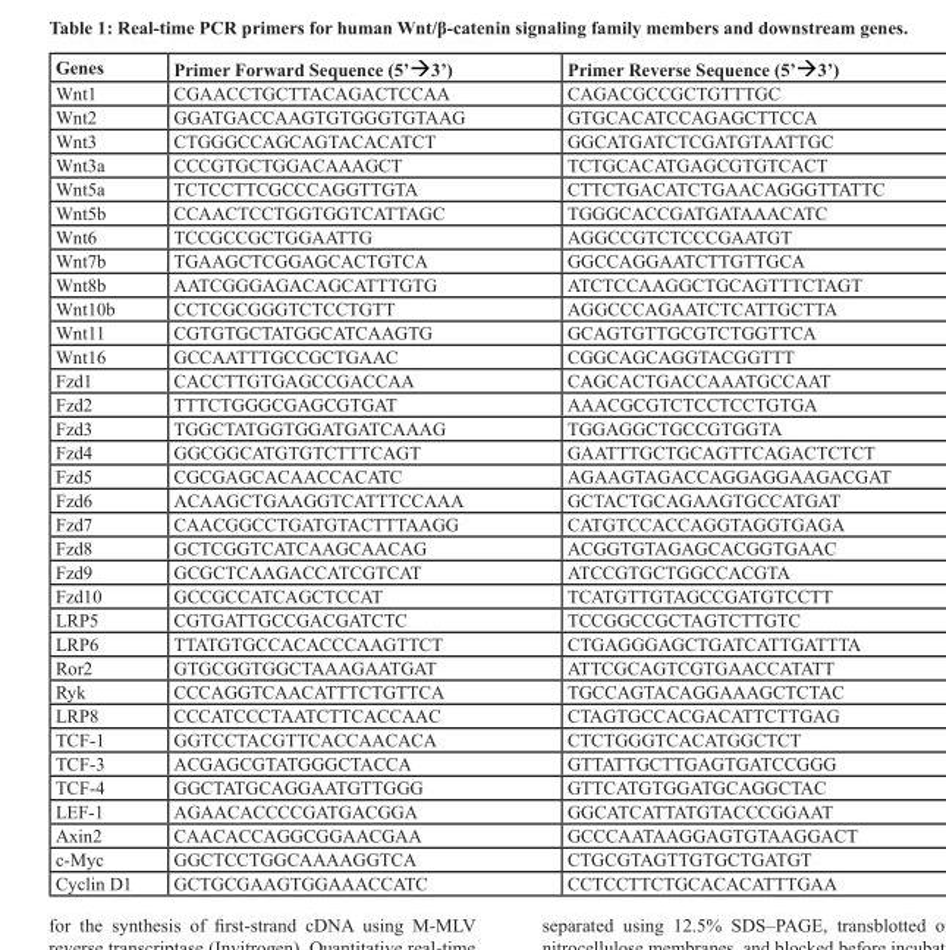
<table><thead><tr><td>Genes</td><td>Primer Forward Sequence (5’→3’)</td><td>Primer Reverse Sequence (5’→3’)</td></tr></thead><tbody><tr><td>Wnt1</td><td>CGAACCTGCTTACAGACTCCAA</td><td>CAGACGCCGCTGTTTGC</td></tr><tr><td>Wnt2</td><td>GGATGACCAAGTGTGGGTGTAAG</td><td>GTGCACATCCAGAGCTTCCA</td></tr><tr><td>Wnt3</td><td>CTGGGCCAGCAGTACACATCT</td><td>GGCATGATCTCGATGTAATTGC</td></tr><tr><td>Wnt3a</td><td>CCCGTGCTGGACAAAGCT</td><td>TCTGCACATGAGCGTGTCACT</td></tr><tr><td>Wnt5a</td><td>TCTCCTTCGCCCAGGTTGTA</td><td>CTTCTGACATCTGAACAGGGTTATTC</td></tr><tr><td>Wnt5b</td><td>CCAACTCCTGGTGGTCATTAGC</td><td>TGGGCACCGATGATAAACATC</td></tr><tr><td>Wnt6</td><td>TCCGCCGCTGGAATTG</td><td>AGGCCGTCTCCCGAATGT</td></tr><tr><td>Wnt7b</td><td>TGAAGCTCGGAGCACTGTCA</td><td>GGCCAGGAATCTTGTTGCA</td></tr><tr><td>Wnt8b</td><td>AATCGGGAGACAGCATTTGTG</td><td>ATCTCCAAGGCTGCAGTTTCTAGT</td></tr><tr><td>Wnt10b</td><td>CCTCGCGGGTCTCCTGTT</td><td>AGGCCCAGAATCTCATTGCTTA</td></tr><tr><td>Wnt11</td><td>CGTGTGCTATGGCATCAAGTG</td><td>GCAGTGTTGCGTCTGGTTCA</td></tr><tr><td>Wnt16</td><td>GCCAATTTGCCGCTGAAC</td><td>CGGCAGCAGGTACGGTTT</td></tr><tr><td>Fzd1</td><td>CACCTTGTGAGCCGACCAA</td><td>CAGCACTGACCAAATGCCAAT</td></tr><tr><td>Fzd2</td><td>TTTCTGGGCGAGCGTGAT</td><td>AAACGCGTCTCCTCCTGTGA</td></tr><tr><td>Fzd3</td><td>TGGCTATGGTGGATGATCAAAG</td><td>TGGAGGCTGCCGTGGTA</td></tr><tr><td>Fzd4</td><td>GGCGGCATGTGTCTTTCAGT</td><td>GAATTTGCTGCAGTTCAGACTCTCT</td></tr><tr><td>Fzd5</td><td>CGCGAGCACAACCACATC</td><td>AGAAGTAGACCAGGAGGAAGACGAT</td></tr><tr><td>Fzd6</td><td>ACAAGCTGAAGGTCATTTCCAAA</td><td>GCTACTGCAGAAGTGCCATGAT</td></tr><tr><td>Fzd7</td><td>CAACGGCCTGATGTACTTTAAGG</td><td>CATGTCCACCAGGTAGGTGAGA</td></tr><tr><td>Fzd8</td><td>GCTCGGTCATCAAGCAACAG</td><td>ACGGTGTAGAGCACGGTGAAC</td></tr><tr><td>Fzd9</td><td>GCGCTCAAGACCATCGTCAT</td><td>ATCCGTGCTGGCCACGTA</td></tr><tr><td>Fzd10</td><td>GCCGCCATCAGCTCCAT</td><td>TCATGTTGTAGCCGATGTCCTT</td></tr><tr><td>LRP5</td><td>CGTGATTGCCGACGATCTC</td><td>TCCGGCCGCTAGTCTTGTC</td></tr><tr><td>LRP6</td><td>TTATGTGCCACACCCAAGTTCT</td><td>CTGAGGGAGCTGATCATTGATTTA</td></tr><tr><td>Ror2</td><td>GTGCGGTGGCTAAAGAATGAT</td><td>ATTCGCAGTCGTGAACCATATT</td></tr><tr><td>Ryk</td><td>CCCAGGTCAACATTTCTGTTCA</td><td>TGCCAGTACAGGAAAGCTCTAC</td></tr><tr><td>LRP8</td><td>CCCATCCCTAATCTTCACCAAC</td><td>CTAGTGCCACGACATTCTTGAG</td></tr><tr><td>TCF-1</td><td>GGTCCTACGTTCACCAACACA</td><td>CTCTGGGTCACATGGCTCT</td></tr><tr><td>TCF-3</td><td>ACGAGCGTATGGGCTACCA</td><td>GTTATTGCTTGAGTGATCCGGG</td></tr><tr><td>TCF-4</td><td>GGCTATGCAGGAATGTTGGG</td><td>GTTCATGTGGATGCAGGCTAC</td></tr><tr><td>LEF-1</td><td>AGAACACCCCGATGACGGA</td><td>GGCATCATTATGTACCCGGAAT</td></tr><tr><td>Axin2</td><td>CAACACCAGGCGGAACGAA</td><td>GCCCAATAAGGAGTGTAAGGACT</td></tr><tr><td>c-Myc</td><td>GGCTCCTGGCAAAAGGTCA</td><td>CTGCGTAGTTGTGCTGATGT</td></tr><tr><td>Cyclin D1</td><td>GCTGCGAAGTGGAAACCATC</td><td>CCTCCTTCTGCACACATTTGAA</td></tr></tbody></table>